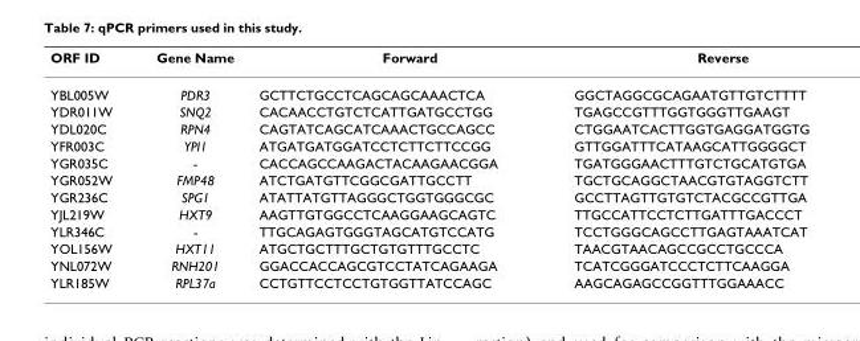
<table><thead><tr><td>ORF ID</td><td>Gene Name</td><td>Forward</td><td>Reverse</td></tr></thead><tbody><tr><td>YBL005W</td><td>PDR3</td><td>GCTTCTGCCTCAGCAGCAAACTCA</td><td>GGCTAGGCGCAGAATGTTGTCTTTT</td></tr><tr><td>YDR011W</td><td>SNQ2</td><td>CACAACCTGTCTCATTGATGCCTGG</td><td>TGAGCCGTTTGGTGGGTTGAAGT</td></tr><tr><td>YDL020C</td><td>RPN4</td><td>CAGTATCAGCATCAAACTGCCAGCC</td><td>CTGGAATCACTTGGTGAGGATGGTG</td></tr><tr><td>YFR003C</td><td>YPI1</td><td>ATGATGATGGATCCTCTTCTTCCGG</td><td>GTTGGATTTCATAAGCATTGGGGCT</td></tr><tr><td>YGR035C</td><td>-</td><td>CACCAGCCAAGACTACAAGAACGGA</td><td>TGATGGGAACTTTGTCTGCATGTGA</td></tr><tr><td>YGR052W</td><td>FMP48</td><td>ATCTGATGTTCGGCGATTGCCTT</td><td>TGCTGCAGGCTAACGTGTAGGTCTT</td></tr><tr><td>YGR236C</td><td>SPG1</td><td>ATATTATGTTAGGGCTGGTGGGCGC</td><td>GCCTTAGTTGTGTCTACGCCGTTGA</td></tr><tr><td>YJL219W</td><td>HXT9</td><td>AAGTTGTGGCCTCAAGGAAGCAGTC</td><td>TTGCCATTCCTCTTGATTTGACCCT</td></tr><tr><td>YLR346C</td><td>-</td><td>TTGCAGAGTGGGTAGCATGTCCATG</td><td>TCCTGGGCAGCCTTGAGTAAATCAT</td></tr><tr><td>YOL156W</td><td>HXT11</td><td>ATGCTGCTTTGCTGTGTTTGCCTC</td><td>TAACGTAACAGCCGCCTGCCCA</td></tr><tr><td>YNL072W</td><td>RNH201</td><td>GGACCACCAGCGTCCTATCAGAAGA</td><td>TCATCGGGATCCCTCTTCAAGGA</td></tr><tr><td>YLR185W</td><td>RPL37a</td><td>CCTGTTCCTCCTGTGGTTATCCAGC</td><td>AAGCAGAGCCGGTTTGGAAACC</td></tr></tbody></table>